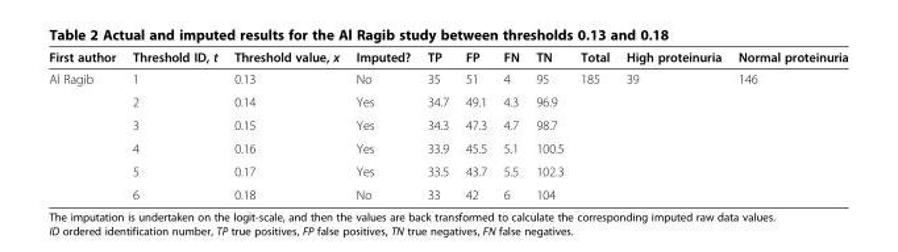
<table><thead><tr><td>First author</td><td>Threshold ID, t</td><td>Threshold value, x</td><td>Imputed?</td><td>TP</td><td>FP</td><td>FN</td><td>TN</td><td>Total</td><td>High proteinuria</td><td>Normal proteinuria</td></tr></thead><tbody><tr><td rowspan="6">Al Ragib</td><td>1</td><td>0.13</td><td>No</td><td>35</td><td>51</td><td>4</td><td>95</td><td>185</td><td>39</td><td>146</td></tr><tr><td>2</td><td>0.14</td><td>Yes</td><td>34.7</td><td>49.1</td><td>4.3</td><td>96.9</td><td></td><td></td><td></td></tr><tr><td>3</td><td>0.15</td><td>Yes</td><td>34.3</td><td>47.3</td><td>4.7</td><td>98.7</td><td></td><td></td><td></td></tr><tr><td>4</td><td>0.16</td><td>Yes</td><td>33.9</td><td>45.5</td><td>5.1</td><td>100.5</td><td></td><td></td><td></td></tr><tr><td>5</td><td>0.17</td><td>Yes</td><td>33.5</td><td>43.7</td><td>5.5</td><td>102.3</td><td></td><td></td><td></td></tr><tr><td>6</td><td>0.18</td><td>No</td><td>33</td><td>42</td><td>6</td><td>104</td><td></td><td></td><td></td></tr></tbody></table>